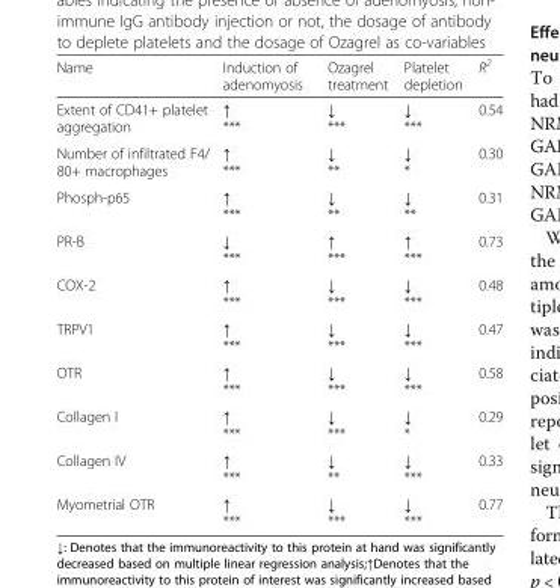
<table><thead><tr><td>Name</td><td>Induction of adenomyosis</td><td>Ozagrel treatment</td><td>Platelet depletion</td><td>R<sup>2</sup></td></tr></thead><tbody><tr><td>Extent of CD41+ platelet aggregation</td><td>↑ ***</td><td>↓ ***</td><td>↓ ***</td><td>0.54</td></tr><tr><td>Number of infiltrated F4/ 80+ macrophages</td><td>↑ ***</td><td>↓ **</td><td>↓ *</td><td>0.30</td></tr><tr><td>Phosph-p65</td><td>↑ ***</td><td>↓ **</td><td>↓ **</td><td>0.31</td></tr><tr><td>PR-B</td><td>↓ ***</td><td>↑ ***</td><td>↑ ***</td><td>0.73</td></tr><tr><td>COX-2</td><td>↑ ***</td><td>↓ ***</td><td>↓ ***</td><td>0.48</td></tr><tr><td>TRPV1</td><td>↑ ***</td><td>↓ ***</td><td>↓ ***</td><td>0.47</td></tr><tr><td>OTR</td><td>↑ ***</td><td>↓ ***</td><td>↓ ***</td><td>0.58</td></tr><tr><td>Collagen I</td><td>↑ ***</td><td>↓ ***</td><td>↓ *</td><td>0.29</td></tr><tr><td>Collagen IV</td><td>↑ ***</td><td>↓ **</td><td>↓ ***</td><td>0.33</td></tr><tr><td>Myometrial OTR</td><td>↑ ***</td><td>↓ ***</td><td>↓ ***</td><td>0.77</td></tr></tbody></table>